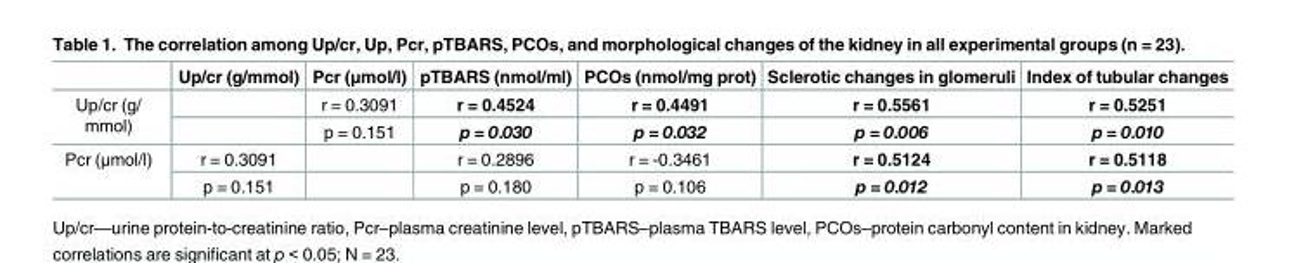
<table><thead><tr><td></td><td>Up/cr (g/mmol)</td><td>Pcr (μmol/l)</td><td>pTBARS (nmol/ml)</td><td>PCOs (nmol/mg prot)</td><td>Sclerotic changes in glomeruli</td><td>Index of tubular changes</td></tr></thead><tbody><tr><td rowspan="2">Up/cr (g/ mmol)</td><td></td><td>r = 0.3091</td><td>r = 0.4524</td><td>r = 0.4491</td><td>r = 0.5561</td><td>r = 0.5251</td></tr><tr><td></td><td>p = 0.151</td><td>p = 0.030</td><td>p = 0.032</td><td>p = 0.006</td><td>p = 0.010</td></tr><tr><td rowspan="2">Pcr (μmol/l)</td><td>r = 0.3091</td><td></td><td>r = 0.2896</td><td>r = -0.3461</td><td>r = 0.5124</td><td>r = 0.5118</td></tr><tr><td>p = 0.151</td><td></td><td>p = 0.180</td><td>p = 0.106</td><td>p = 0.012</td><td>p = 0.013</td></tr></tbody></table>